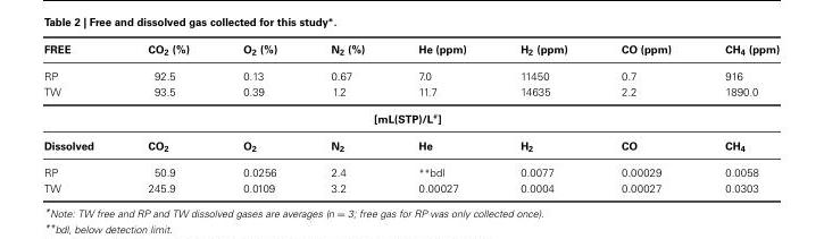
<table><thead><tr><td>FREE</td><td>CO<sub>2</sub> (%)</td><td>O<sub>2</sub> (%)</td><td>N<sub>2</sub> (%)</td><td>He (ppm)</td><td>H<sub>2</sub> (ppm)</td><td>CO (ppm)</td><td>CH<sub>4</sub> (ppm)</td></tr></thead><tbody><tr><td>RP</td><td>92.5</td><td>0.13</td><td>0.67</td><td>7.0</td><td>11450</td><td>0.7</td><td>916</td></tr><tr><td>TW</td><td>93.5</td><td>0.39</td><td>1.2</td><td>11.7</td><td>14635</td><td>2.2</td><td>1890.0</td></tr><tr><td colspan="8">[mL(STP)/L<sup>#</sup>]</td></tr><tr><td>Dissolved</td><td>CO<sub>2</sub></td><td>O<sub>2</sub></td><td>N<sub>2</sub></td><td>He</td><td>H<sub>2</sub></td><td>CO</td><td>CH<sub>4</sub></td></tr><tr><td>RP</td><td>50.9</td><td>0.0256</td><td>2.4</td><td>**bdl</td><td>0.0077</td><td>0.00029</td><td>0.0058</td></tr><tr><td>TW</td><td>245.9</td><td>0.0109</td><td>3.2</td><td>0.00027</td><td>0.0004</td><td>0.00027</td><td>0.0303</td></tr></tbody></table>